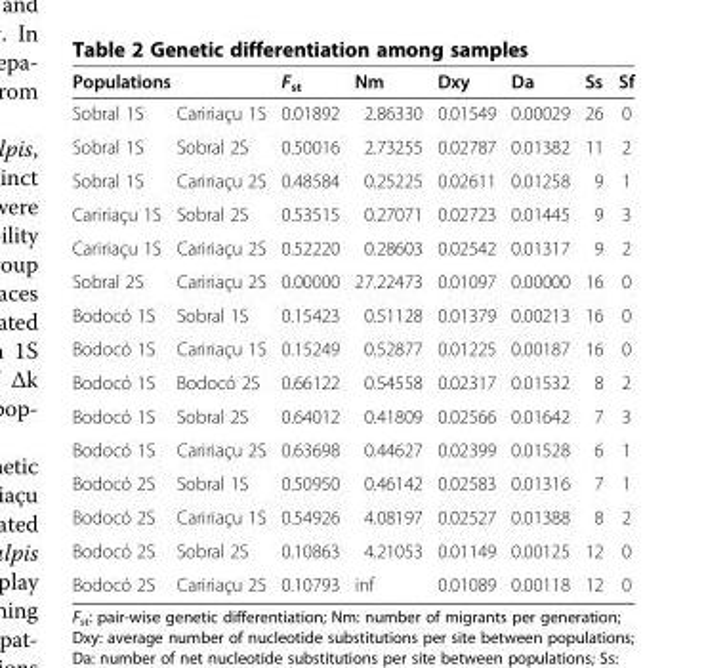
<table><thead><tr><td colspan="2">Populations</td><td rowspan="2">F<sub>st</sub> 0.01892</td><td rowspan="2">Nm 2.86330</td><td rowspan="2">Dxy 0.01549</td><td rowspan="2">Da 0.00029</td><td rowspan="2">Ss 26</td><td rowspan="2">Sf 0</td></tr><tr><td>Sobral 1S</td><td>Caririaçu 1S</td></tr></thead><tbody><tr><td>Sobral 1S</td><td>Sobral 2S</td><td>0.50016</td><td>2.73255</td><td>0.02787</td><td>0.01382</td><td>11</td><td>2</td></tr><tr><td>Sobral 1S</td><td>Caririaçu 2S</td><td>0.48584</td><td>0.25225</td><td>0.02611</td><td>0.01258</td><td>9</td><td>1</td></tr><tr><td>Caririaçu 1S</td><td>Sobral 2S</td><td>0.53515</td><td>0.27071</td><td>0.02723</td><td>0.01445</td><td>9</td><td>3</td></tr><tr><td>Caririaçu 1S</td><td>Caririaçu 2S</td><td>0.52220</td><td>0.28603</td><td>0.02542</td><td>0.01317</td><td>9</td><td>2</td></tr><tr><td>Sobral 2S</td><td>Caririaçu 2S</td><td>0.00000</td><td>27.22473</td><td>0.01097</td><td>0.00000</td><td>16</td><td>0</td></tr><tr><td>Bodocó 1S</td><td>Sobral 1S</td><td>0.15423</td><td>0.51128</td><td>0.01379</td><td>0.00213</td><td>16</td><td>0</td></tr><tr><td>Bodocó 1S</td><td>Caririaçu 1S</td><td>0.15249</td><td>0.52877</td><td>0.01225</td><td>0.00187</td><td>16</td><td>0</td></tr><tr><td>Bodocó 1S</td><td>Bodocó 2S</td><td>0.66122</td><td>0.54558</td><td>0.02317</td><td>0.01532</td><td>8</td><td>2</td></tr><tr><td>Bodocó 1S</td><td>Sobral 2S</td><td>0.64012</td><td>0.41809</td><td>0.02566</td><td>0.01642</td><td>7</td><td>3</td></tr><tr><td>Bodocó 1S</td><td>Caririaçu 2S</td><td>0.63698</td><td>0.44627</td><td>0.02399</td><td>0.01528</td><td>6</td><td>1</td></tr><tr><td>Bodocó 2S</td><td>Sobral 1S</td><td>0.50950</td><td>0.46142</td><td>0.02583</td><td>0.01316</td><td>7</td><td>1</td></tr><tr><td>Bodocó 2S</td><td>Caririaçu 1S</td><td>0.54926</td><td>4.08197</td><td>0.02527</td><td>0.01388</td><td>8</td><td>2</td></tr><tr><td>Bodocó 2S</td><td>Sobral 2S</td><td>0.10863</td><td>4.21053</td><td>0.01149</td><td>0.00125</td><td>12</td><td>0</td></tr><tr><td>Bodocó 2S</td><td>Caririaçu 2S</td><td>0.10793</td><td>inf</td><td>0.01089</td><td>0.00118</td><td>12</td><td>0</td></tr></tbody></table>